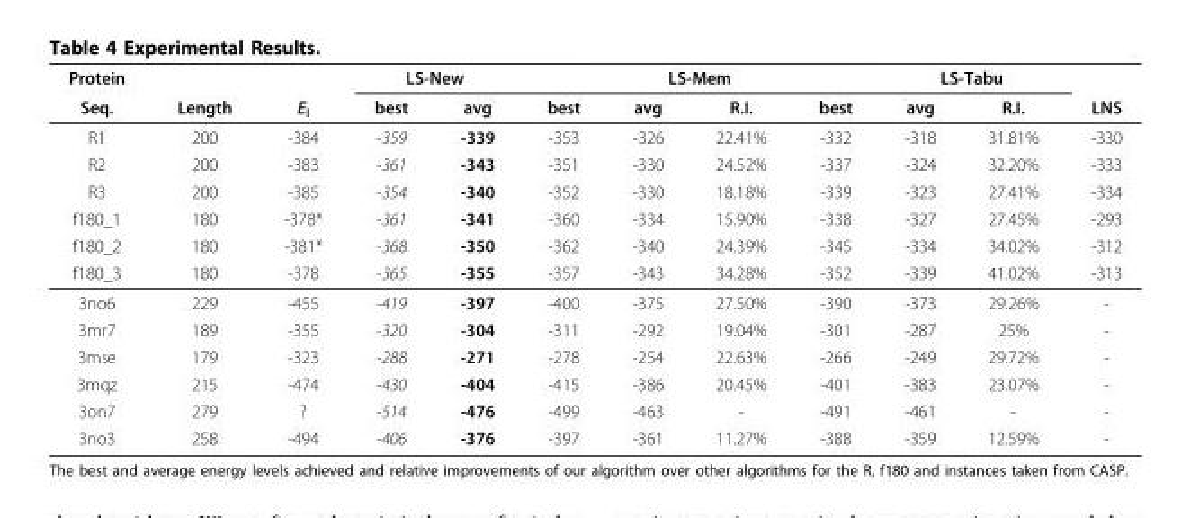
<table><thead><tr><td rowspan="2">Protein Seq.</td><td rowspan="2">Length</td><td rowspan="2">E<sub>l</sub></td><td colspan="2">LS-New</td><td rowspan="2">best</td><td colspan="2">LS-Mem</td><td rowspan="2">best</td><td colspan="2">LS-Tabu</td><td rowspan="2">LNS</td></tr><tr><td>best</td><td>avg</td><td>avg</td><td>R.I.</td><td>avg</td><td>R.I.</td></tr></thead><tbody><tr><td>R1</td><td>200</td><td>-384</td><td>-359</td><td>-339</td><td>-353</td><td>-326</td><td>22.41%</td><td>-332</td><td>-318</td><td>31.81%</td><td>-330</td></tr><tr><td>R2</td><td>200</td><td>-383</td><td>-361</td><td>-343</td><td>-351</td><td>-330</td><td>24.52%</td><td>-337</td><td>-324</td><td>32.20%</td><td>-333</td></tr><tr><td>R3</td><td>200</td><td>-385</td><td>-354</td><td>-340</td><td>-352</td><td>-330</td><td>18.18%</td><td>-339</td><td>-323</td><td>27.41%</td><td>-334</td></tr><tr><td>f180_1</td><td>180</td><td>-378*</td><td>-361</td><td>-341</td><td>-360</td><td>-334</td><td>15.90%</td><td>-338</td><td>-327</td><td>27.45%</td><td>-293</td></tr><tr><td>f180_2</td><td>180</td><td>-381*</td><td>-368</td><td>-350</td><td>-362</td><td>-340</td><td>24.39%</td><td>-345</td><td>-334</td><td>34.02%</td><td>-312</td></tr><tr><td>f180_3</td><td>180</td><td>-378</td><td>-365</td><td>-355</td><td>-357</td><td>-343</td><td>34.28%</td><td>-352</td><td>-339</td><td>41.02%</td><td>-313</td></tr><tr><td>3no6</td><td>229</td><td>-455</td><td>-419</td><td>-397</td><td>-400</td><td>-375</td><td>27.50%</td><td>-390</td><td>-373</td><td>29.26%</td><td>-</td></tr><tr><td>3mr7</td><td>189</td><td>-355</td><td>-320</td><td>-304</td><td>-311</td><td>-292</td><td>19.04%</td><td>-301</td><td>-287</td><td>25%</td><td>-</td></tr><tr><td>3mse</td><td>179</td><td>-323</td><td>-288</td><td>-271</td><td>-278</td><td>-254</td><td>22.63%</td><td>-266</td><td>-249</td><td>29.72%</td><td>-</td></tr><tr><td>3mqz</td><td>215</td><td>-474</td><td>-430</td><td>-404</td><td>-415</td><td>-386</td><td>20.45%</td><td>-401</td><td>-383</td><td>23.07%</td><td>-</td></tr><tr><td>3on7</td><td>279</td><td>?</td><td>-514</td><td>-476</td><td>-499</td><td>-463</td><td>-</td><td>-491</td><td>-461</td><td>-</td><td>-</td></tr><tr><td>3no3</td><td>258</td><td>-494</td><td>-406</td><td>-376</td><td>-397</td><td>-361</td><td>11.27%</td><td>-388</td><td>-359</td><td>12.59%</td><td>-</td></tr></tbody></table>